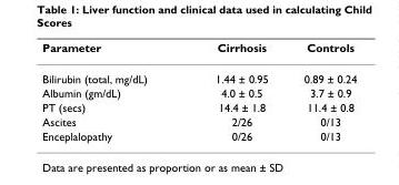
<table><thead><tr><td>Parameter</td><td>Cirrhosis</td><td>Controls</td></tr></thead><tbody><tr><td>Bilirubin (total, mg/dL)</td><td>1.44 ± 0.95</td><td>0.89 ± 0.24</td></tr><tr><td>Albumin (gm/dL)</td><td>4.0 ± 0.5</td><td>3.7 ± 0.9</td></tr><tr><td>PT (secs)</td><td>14.4 ± 1.8</td><td>11.4 ± 0.8</td></tr><tr><td>Ascites</td><td>2/26</td><td>0/13</td></tr><tr><td>Enceplalopathy</td><td>0/26</td><td>0/13</td></tr></tbody></table>